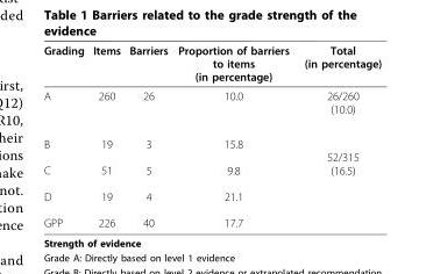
<table><thead><tr><td>Grading</td><td>Items</td><td>Barriers</td><td>Proportion of barriers to items (in percentage)</td><td>Total (in percentage)</td></tr></thead><tbody><tr><td>A</td><td>260</td><td>26</td><td>10.0</td><td>26/260 (10.0)</td></tr><tr><td>B C D GPP</td><td>19 51 19 226</td><td>3 5 4 40</td><td>15.8 9.8 21.1 17.7</td><td>52/315 (16.5)</td></tr></tbody></table>